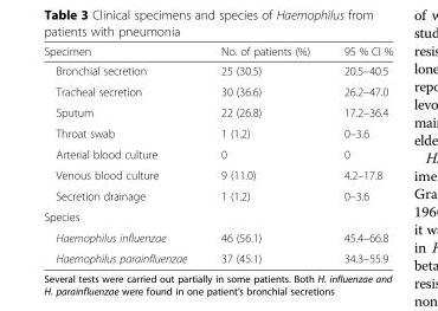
<table><thead><tr><td>Specimen</td><td>No. of patients (%)</td><td>95 % CI %</td></tr></thead><tbody><tr><td>Bronchial secretion</td><td>25 (30.5)</td><td>20.5–40.5</td></tr><tr><td>Tracheal secretion</td><td>30 (36.6)</td><td>26.2–47.0</td></tr><tr><td>Sputum</td><td>22 (26.8)</td><td>17.2–36.4</td></tr><tr><td>Throat swab</td><td>1 (1.2)</td><td>0–3.6</td></tr><tr><td>Arterial blood culture</td><td>0</td><td>0</td></tr><tr><td>Venous blood culture</td><td>9 (11.0)</td><td>4.2–17.8</td></tr><tr><td>Secretion drainage</td><td>1 (1.2)</td><td>0–3.6</td></tr><tr><td colspan="3">Species</td></tr><tr><td>Haemophilus influenzae</td><td>46 (56.1)</td><td>45.4–66.8</td></tr><tr><td>Haemophilus parainfluenzae</td><td>37 (45.1)</td><td>34.3–55.9</td></tr></tbody></table>